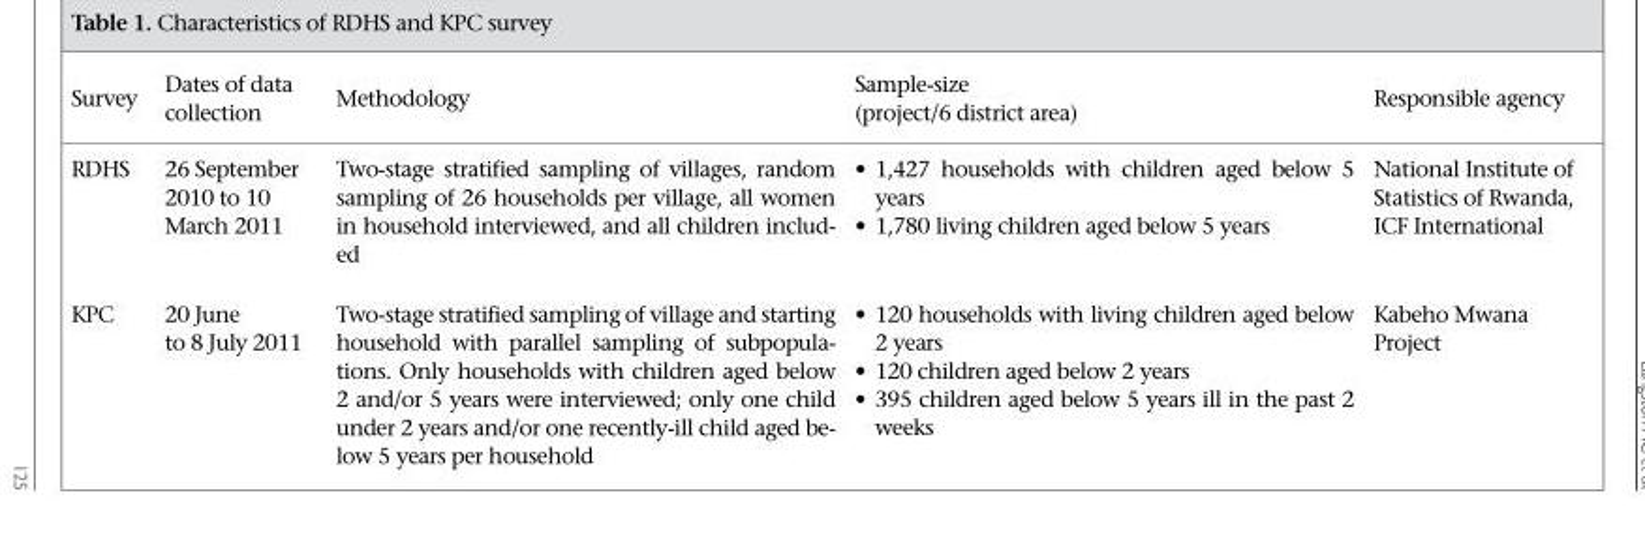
<table><thead><tr><td>Survey</td><td>Dates of data collection</td><td>Methodology</td><td>Sample-size (project/6 district area)</td><td>Responsible agency</td></tr></thead><tbody><tr><td>RDHS</td><td>26 September 2010 to 10 March 2011</td><td>Two-stage stratified sampling of villages, random sampling of 26 households per village, all women in household interviewed, and all children includ- ed</td><td>1,427 households with children aged below 5 • years 1,780 living children aged below 5 years •</td><td>National Institute of Statistics of Rwanda, ICF International</td></tr><tr><td>KPC</td><td>20 June to 8 July 2011</td><td>Two-stage stratified sampling of village and starting household with parallel sampling of subpopula- tions. Only households with children aged below 2 and/or 5 years were interviewed; only one child under 2 years and/or one recently-ill child aged be- low 5 years per household</td><td>120 households with living children aged below • 2 years 120 children aged below 2 years • 395 children aged below 5 years ill in the past 2 • weeks</td><td>Kabeho Mwana Project</td></tr></tbody></table>